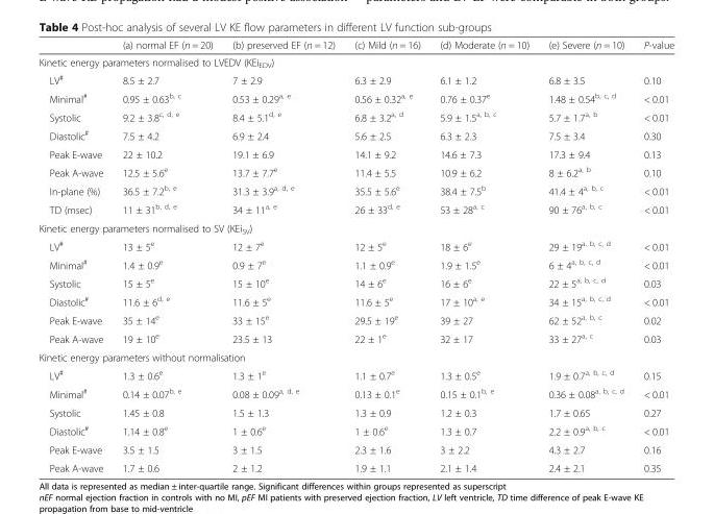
<table><thead><tr><td></td><td>(a) normal EF (n = 20)</td><td>(b) preserved EF (n = 12)</td><td>(c) Mild (n = 16)</td><td>(d) Moderate (n = 10)</td><td>(e) Severe (n = 10)</td><td>P-value</td></tr></thead><tbody><tr><td colspan="7">Kinetic energy parameters normalised to LVEDV (KEi<sub>EDV</sub>)</td></tr><tr><td>LV<sup>#</sup></td><td>8.5 ± 2.7</td><td>7 ± 2.9</td><td>6.3 ± 2.9</td><td>6.1 ± 1.2</td><td>6.8 ± 3.5</td><td>0.10</td></tr><tr><td>Minimal<sup>#</sup></td><td>0.95 ± 0.63<sup>b, c</sup></td><td>0.53 ± 0.29<sup>a, e</sup></td><td>0.56 ± 0.32<sup>a, e</sup></td><td>0.76 ± 0.37<sup>e</sup></td><td>1.48 ± 0.54<sup>b, c, d</sup></td><td>&lt; 0.01</td></tr><tr><td>Systolic</td><td>9.2 ± 3.8<sup>c, d, e</sup></td><td>8.4 ± 5.1<sup>d, e</sup></td><td>6.8 ± 3.2<sup>a, d</sup></td><td>5.9 ± 1.5<sup>a, b, c</sup></td><td>5.7 ± 1.7<sup>a, b</sup></td><td>&lt; 0.01</td></tr><tr><td>Diastolic<sup>#</sup></td><td>7.5 ± 4.2</td><td>6.9 ± 2.4</td><td>5.6 ± 2.5</td><td>6.3 ± 2.3</td><td>7.5 ± 3.4</td><td>0.30</td></tr><tr><td>Peak E-wave</td><td>22 ± 10.2</td><td>19.1 ± 6.9</td><td>14.1 ± 9.2</td><td>14.6 ± 7.3</td><td>17.3 ± 9.4</td><td>0.13</td></tr><tr><td>Peak A-wave</td><td>12.5 ± 5.6<sup>e</sup></td><td>13.7 ± 7.7<sup>e</sup></td><td>11.4 ± 5.5</td><td>10.9 ± 6.2</td><td>8 ± 6.2<sup>a, b</sup></td><td>0.10</td></tr><tr><td>In-plane (%)</td><td>36.5 ± 7.2<sup>b, e</sup></td><td>31.3 ± 3.9<sup>a, d, e</sup></td><td>35.5 ± 5.6<sup>e</sup></td><td>38.4 ± 7.5<sup>b</sup></td><td>41.4 ± 4<sup>a, b, c</sup></td><td>&lt; 0.01</td></tr><tr><td>TD (msec)</td><td>11 ± 31<sup>b, d, e</sup></td><td>34 ± 11<sup>a, e</sup></td><td>26 ± 33<sup>d, e</sup></td><td>53 ± 28<sup>a, c</sup></td><td>90 ± 76<sup>a, b, c</sup></td><td>&lt; 0.01</td></tr><tr><td colspan="7">Kinetic energy parameters normalised to SV (KEi<sub>SV</sub>)</td></tr><tr><td>LV<sup>#</sup></td><td>13 ± 5<sup>e</sup></td><td>12 ± 7<sup>e</sup></td><td>12 ± 5<sup>e</sup></td><td>18 ± 6<sup>e</sup></td><td>29 ± 19<sup>a, b, c, d</sup></td><td>&lt; 0.01</td></tr><tr><td>Minimal<sup>#</sup></td><td>1.4 ± 0.9<sup>e</sup></td><td>0.9 ± 7<sup>e</sup></td><td>1.1 ± 0.9<sup>e</sup></td><td>1.9 ± 1.5<sup>e</sup></td><td>6 ± 4<sup>a, b, c, d</sup></td><td>&lt; 0.01</td></tr><tr><td>Systolic</td><td>15 ± 5<sup>e</sup></td><td>15 ± 10<sup>e</sup></td><td>14 ± 6<sup>e</sup></td><td>16 ± 6<sup>e</sup></td><td>22 ± 5<sup>a, b, c, d</sup></td><td>0.03</td></tr><tr><td>Diastolic<sup>#</sup></td><td>11.6 ± 6<sup>d, e</sup></td><td>11.6 ± 5<sup>e</sup></td><td>11.6 ± 5<sup>e</sup></td><td>17 ± 10<sup>a, e</sup></td><td>34 ± 15<sup>a, b, c, d</sup></td><td>&lt; 0.01</td></tr><tr><td>Peak E-wave</td><td>35 ± 14<sup>e</sup></td><td>33 ± 15<sup>e</sup></td><td>29.5 ± 19<sup>e</sup></td><td>39 ± 27</td><td>62 ± 52<sup>a, b, c</sup></td><td>0.02</td></tr><tr><td>Peak A-wave</td><td>19 ± 10<sup>e</sup></td><td>23.5 ± 13</td><td>22 ± 1<sup>e</sup></td><td>32 ± 17</td><td>33 ± 27<sup>a, c</sup></td><td>0.03</td></tr><tr><td colspan="7">Kinetic energy parameters without normalisation</td></tr><tr><td>LV<sup>#</sup></td><td>1.3 ± 0.6<sup>e</sup></td><td>1.3 ± 1<sup>e</sup></td><td>1.1 ± 0.7<sup>e</sup></td><td>1.3 ± 0.5<sup>e</sup></td><td>1.9 ± 0.7<sup>a, b, c, d</sup></td><td>0.15</td></tr><tr><td>Minimal<sup>#</sup></td><td>0.14 ± 0.07<sup>b, e</sup></td><td>0.08 ± 0.09<sup>a, d, e</sup></td><td>0.13 ± 0.1<sup>e</sup></td><td>0.15 ± 0.1<sup>b, e</sup></td><td>0.36 ± 0.08<sup>a, b, c, d</sup></td><td>&lt; 0.01</td></tr><tr><td>Systolic</td><td>1.45 ± 0.8</td><td>1.5 ± 1.3</td><td>1.3 ± 0.9</td><td>1.2 ± 0.3</td><td>1.7 ± 0.65</td><td>0.27</td></tr><tr><td>Diastolic<sup>#</sup></td><td>1.14 ± 0.8<sup>e</sup></td><td>1 ± 0.6<sup>e</sup></td><td>1 ± 0.6<sup>e</sup></td><td>1.3 ± 0.7</td><td>2.2 ± 0.9<sup>a, b, c</sup></td><td>&lt; 0.01</td></tr><tr><td>Peak E-wave</td><td>3.5 ± 1.5</td><td>3 ± 1.5</td><td>2.3 ± 1.6</td><td>3 ± 2.2</td><td>4.3 ± 2.7</td><td>0.16</td></tr><tr><td>Peak A-wave</td><td>1.7 ± 0.6</td><td>2 ± 1.2</td><td>1.9 ± 1.1</td><td>2.1 ± 1.4</td><td>2.4 ± 2.1</td><td>0.35</td></tr></tbody></table>